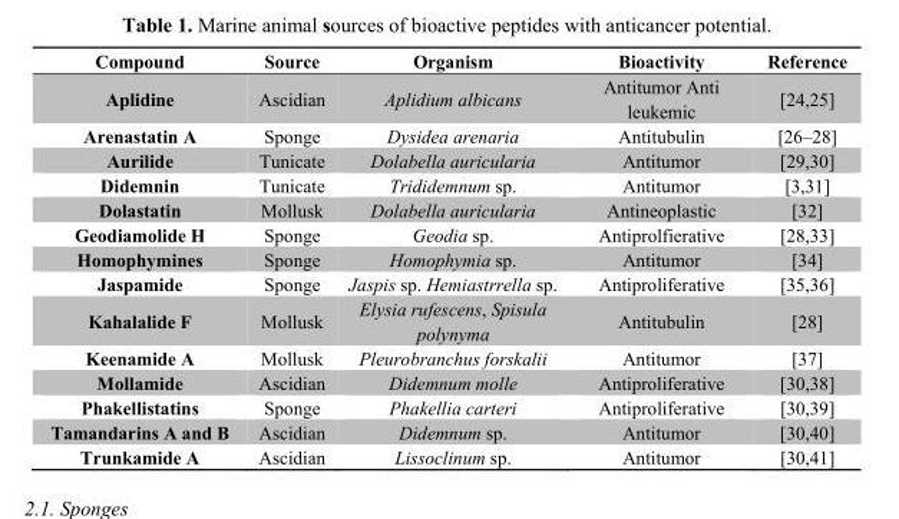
<table><thead><tr><td>Compound</td><td>Source</td><td>Organism</td><td>Bioactivity</td><td>Reference</td></tr></thead><tbody><tr><td>Aplidine</td><td>Ascidian</td><td>Aplidium albicans</td><td>Antitumor Anti leukemic</td><td>[24,25]</td></tr><tr><td>Arenastatin A</td><td>Sponge</td><td>Dysidea arenaria</td><td>Antitubulin</td><td>[26–28]</td></tr><tr><td>Aurilide</td><td>Tunicate</td><td>Dolabella auricularia</td><td>Antitumor</td><td>[29,30]</td></tr><tr><td>Didemnin</td><td>Tunicate</td><td>Trididemnum sp.</td><td>Antitumor</td><td>[3,31]</td></tr><tr><td>Dolastatin</td><td>Mollusk</td><td>Dolabella auricularia</td><td>Antineoplastic</td><td>[32]</td></tr><tr><td>Geodiamolide H</td><td>Sponge</td><td>Geodia sp.</td><td>Antiprolfierative</td><td>[28,33]</td></tr><tr><td>Homophymines</td><td>Sponge</td><td>Homophymia sp.</td><td>Antitumor</td><td>[34]</td></tr><tr><td>Jaspamide</td><td>Sponge</td><td>Jaspis sp. Hemiastrrella sp.</td><td>Antiproliferative</td><td>[35,36]</td></tr><tr><td>Kahalalide F</td><td>Mollusk</td><td>Elysia rufescens, Spisula polynyma</td><td>Antitubulin</td><td>[28]</td></tr><tr><td>Keenamide A</td><td>Mollusk</td><td>Pleurobranchus forskalii</td><td>Antitumor</td><td>[37]</td></tr><tr><td>Mollamide</td><td>Ascidian</td><td>Didemnum molle</td><td>Antiproliferative</td><td>[30,38]</td></tr><tr><td>Phakellistatins</td><td>Sponge</td><td>Phakellia carteri</td><td>Antiproliferative</td><td>[30,39]</td></tr><tr><td>Tamandarins A and B</td><td>Ascidian</td><td>Didemnum sp.</td><td>Antitumor</td><td>[30,40]</td></tr><tr><td>Trunkamide A</td><td>Ascidian</td><td>Lissoclinum sp.</td><td>Antitumor</td><td>[30,41]</td></tr></tbody></table>